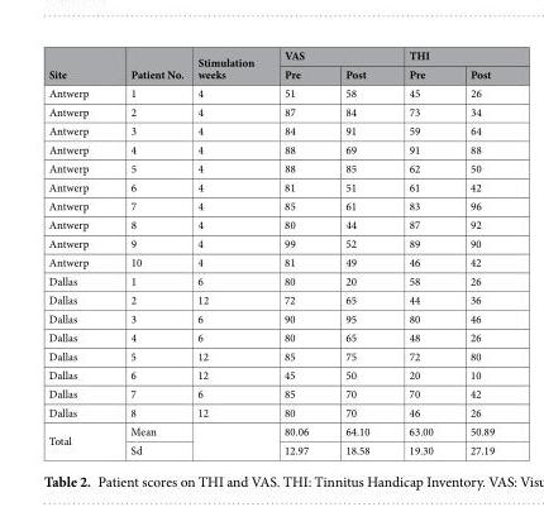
<table><thead><tr><td rowspan="2">Site</td><td rowspan="2">Patient No.</td><td rowspan="2">Stimulation weeks</td><td colspan="2">VAS</td><td colspan="2">THI</td></tr><tr><td>Pre</td><td>Post</td><td>Pre</td><td>Post</td></tr></thead><tbody><tr><td>Antwerp</td><td>1</td><td>4</td><td>51</td><td>58</td><td>45</td><td>26</td></tr><tr><td>Antwerp</td><td>2</td><td>4</td><td>87</td><td>84</td><td>73</td><td>34</td></tr><tr><td>Antwerp</td><td>3</td><td>4</td><td>84</td><td>91</td><td>59</td><td>64</td></tr><tr><td>Antwerp</td><td>4</td><td>4</td><td>88</td><td>69</td><td>91</td><td>88</td></tr><tr><td>Antwerp</td><td>5</td><td>4</td><td>88</td><td>85</td><td>62</td><td>50</td></tr><tr><td>Antwerp</td><td>6</td><td>4</td><td>81</td><td>51</td><td>61</td><td>42</td></tr><tr><td>Antwerp</td><td>7</td><td>4</td><td>85</td><td>61</td><td>83</td><td>96</td></tr><tr><td>Antwerp</td><td>8</td><td>4</td><td>80</td><td>44</td><td>87</td><td>92</td></tr><tr><td>Antwerp</td><td>9</td><td>4</td><td>99</td><td>52</td><td>89</td><td>90</td></tr><tr><td>Antwerp</td><td>10</td><td>4</td><td>81</td><td>49</td><td>46</td><td>42</td></tr><tr><td>Dallas</td><td>1</td><td>6</td><td>80</td><td>20</td><td>58</td><td>26</td></tr><tr><td>Dallas</td><td>2</td><td>12</td><td>72</td><td>65</td><td>44</td><td>36</td></tr><tr><td>Dallas</td><td>3</td><td>6</td><td>90</td><td>95</td><td>80</td><td>46</td></tr><tr><td>Dallas</td><td>4</td><td>6</td><td>80</td><td>65</td><td>48</td><td>26</td></tr><tr><td>Dallas</td><td>5</td><td>12</td><td>85</td><td>75</td><td>72</td><td>80</td></tr><tr><td>Dallas</td><td>6</td><td>12</td><td>45</td><td>50</td><td>20</td><td>10</td></tr><tr><td>Dallas</td><td>7</td><td>6</td><td>85</td><td>70</td><td>70</td><td>42</td></tr><tr><td>Dallas</td><td>8</td><td>12</td><td>80</td><td>70</td><td>46</td><td>26</td></tr><tr><td rowspan="2">Total</td><td>Mean</td><td rowspan="2"></td><td>80.06</td><td>64.10</td><td>63.00</td><td>50.89</td></tr><tr><td>Sd</td><td>12.97</td><td>18.58</td><td>19.30</td><td>27.19</td></tr></tbody></table>